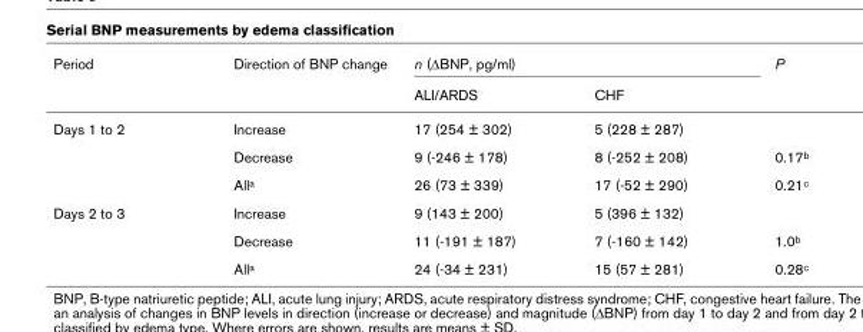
<table><thead><tr><td rowspan="2">Period</td><td rowspan="2">Direction of BNP change</td><td colspan="2">n (ΔBNP, pg/ml)</td><td rowspan="2">P</td></tr><tr><td>ALI/ARDS</td><td>CHF</td></tr></thead><tbody><tr><td rowspan="3">Days 1 to 2</td><td>Increase</td><td>17 (254 ± 302)</td><td>5 (228 ± 287)</td><td></td></tr><tr><td>Decrease</td><td>9 (-246 ± 178)</td><td>8 (-252 ± 208)</td><td>0.17<sup>b</sup></td></tr><tr><td>All<sup>a</sup></td><td>26 (73 ± 339)</td><td>17 (-52 ± 290)</td><td>0.21<sup>c</sup></td></tr><tr><td rowspan="3">Days 2 to 3</td><td>Increase</td><td>9 (143 ± 200)</td><td>5 (396 ± 132)</td><td></td></tr><tr><td>Decrease</td><td>11 (-191 ± 187)</td><td>7 (-160 ± 142)</td><td>1.0<sup>b</sup></td></tr><tr><td>All<sup>a</sup></td><td>24 (-34 ± 231)</td><td>15 (57 ± 281)</td><td>0.28<sup>c</sup></td></tr></tbody></table>